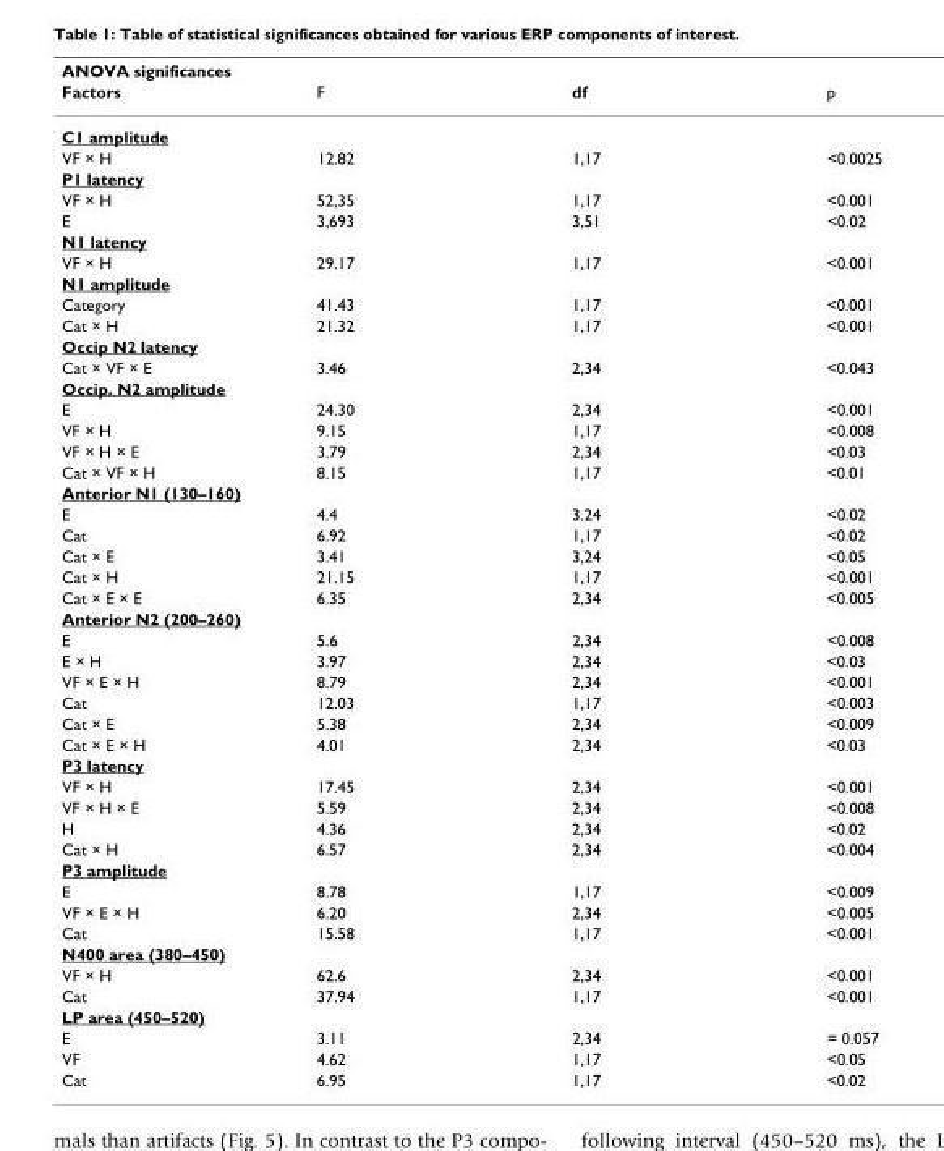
<table><thead><tr><td colspan="4">ANOVA significances</td></tr><tr><td>Factors</td><td>F</td><td>df</td><td>p</td></tr></thead><tbody><tr><td colspan="4">C1 amplitude</td></tr><tr><td>VF × H</td><td>12.82</td><td>1,17</td><td>&lt;0.0025</td></tr><tr><td colspan="4">P1 latency</td></tr><tr><td>VF × H</td><td>52,35</td><td>1,17</td><td>&lt;0.001</td></tr><tr><td>E</td><td>3,693</td><td>3,51</td><td>&lt;0.02</td></tr><tr><td colspan="4">N1 latency</td></tr><tr><td>VF × H</td><td>29.17</td><td>1,17</td><td>&lt;0.001</td></tr><tr><td colspan="4">N1 amplitude</td></tr><tr><td>Category</td><td>41.43</td><td>1,17</td><td>&lt;0.001</td></tr><tr><td>Cat × H</td><td>21.32</td><td>1,17</td><td>&lt;0.001</td></tr><tr><td colspan="4">Occip N2 latency</td></tr><tr><td>Cat × VF × E</td><td>3.46</td><td>2,34</td><td>&lt;0.043</td></tr><tr><td colspan="4">Occip. N2 amplitude</td></tr><tr><td>E</td><td>24.30</td><td>2,34</td><td>&lt;0.001</td></tr><tr><td>VF × H</td><td>9.15</td><td>1,17</td><td>&lt;0.008</td></tr><tr><td>VF × H × E</td><td>3.79</td><td>2,34</td><td>&lt;0.03</td></tr><tr><td>Cat × VF × H</td><td>8.15</td><td>1,17</td><td>&lt;0.01</td></tr><tr><td colspan="4">Anterior N1 (130–160)</td></tr><tr><td>E</td><td>4.4</td><td>3.24</td><td>&lt;0.02</td></tr><tr><td>Cat</td><td>6.92</td><td>1,17</td><td>&lt;0.02</td></tr><tr><td>Cat × E</td><td>3.41</td><td>3,24</td><td>&lt;0.05</td></tr><tr><td>Cat × H</td><td>21.15</td><td>1,17</td><td>&lt;0.001</td></tr><tr><td>Cat × E × E</td><td>6.35</td><td>2,34</td><td>&lt;0.005</td></tr><tr><td colspan="4">Anterior N2 (200–260)</td></tr><tr><td>E</td><td>5.6</td><td>2,34</td><td>&lt;0.008</td></tr><tr><td>E × H</td><td>3.97</td><td>2,34</td><td>&lt;0.03</td></tr><tr><td>VF × E × H</td><td>8.79</td><td>2,34</td><td>&lt;0.001</td></tr><tr><td>Cat</td><td>12.03</td><td>1,17</td><td>&lt;0.003</td></tr><tr><td>Cat × E</td><td>5.38</td><td>2,34</td><td>&lt;0.009</td></tr><tr><td>Cat × E × H</td><td>4.01</td><td>2,34</td><td>&lt;0.03</td></tr><tr><td colspan="4">P3 latency</td></tr><tr><td>VF × H</td><td>17.45</td><td>2,34</td><td>&lt;0.001</td></tr><tr><td>VF × H × E</td><td>5.59</td><td>2,34</td><td>&lt;0.008</td></tr><tr><td>H</td><td>4.36</td><td>2,34</td><td>&lt;0.02</td></tr><tr><td>Cat × H</td><td>6.57</td><td>2,34</td><td>&lt;0.004</td></tr><tr><td colspan="4">P3 amplitude</td></tr><tr><td>E</td><td>8.78</td><td>1,17</td><td>&lt;0.009</td></tr><tr><td>VF × E × H</td><td>6.20</td><td>2,34</td><td>&lt;0.005</td></tr><tr><td>Cat</td><td>15.58</td><td>1,17</td><td>&lt;0.001</td></tr><tr><td colspan="4">N400 area (380–450)</td></tr><tr><td>VF × H</td><td>62.6</td><td>2,34</td><td>&lt;0.001</td></tr><tr><td>Cat</td><td>37.94</td><td>1,17</td><td>&lt;0.001</td></tr><tr><td colspan="4">LP area (450–520)</td></tr><tr><td>E</td><td>3.11</td><td>2,34</td><td>= 0.057</td></tr><tr><td>VF</td><td>4.62</td><td>1,17</td><td>&lt;0.05</td></tr><tr><td>Cat</td><td>6.95</td><td>1,17</td><td>&lt;0.02</td></tr></tbody></table>